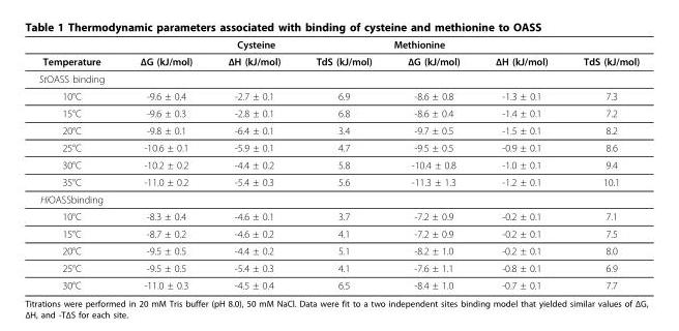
<table><thead><tr><td rowspan="2">Temperature</td><td colspan="3">Cysteine</td><td colspan="3">Methionine</td></tr><tr><td>ΔG (kJ/mol)</td><td>ΔH (kJ/mol)</td><td>TdS (kJ/mol)</td><td>ΔG (kJ/mol)</td><td>ΔH (kJ/mol)</td><td>TdS (kJ/mol)</td></tr></thead><tbody><tr><td colspan="7">StOASS binding</td></tr><tr><td>10°C</td><td>-9.6 ± 0.4</td><td>-2.7 ± 0.1</td><td>6.9</td><td>-8.6 ± 0.8</td><td>-1.3 ± 0.1</td><td>7.3</td></tr><tr><td>15°C</td><td>-9.6 ± 0.3</td><td>-2.8 ± 0.1</td><td>6.8</td><td>-8.6 ± 0.4</td><td>-1.4 ± 0.1</td><td>7.2</td></tr><tr><td>20°C</td><td>-9.8 ± 0.1</td><td>-6.4 ± 0.1</td><td>3.4</td><td>-9.7 ± 0.5</td><td>-1.5 ± 0.1</td><td>8.2</td></tr><tr><td>25°C</td><td>-10.6 ± 0.1</td><td>-5.9 ± 0.1</td><td>4.7</td><td>-9.5 ± 0.5</td><td>-0.9 ± 0.1</td><td>8.6</td></tr><tr><td>30°C</td><td>-10.2 ± 0.2</td><td>-4.4 ± 0.2</td><td>5.8</td><td>-10.4 ± 0.8</td><td>-1.0 ± 0.1</td><td>9.4</td></tr><tr><td>35°C</td><td>-11.0 ± 0.2</td><td>-5.4 ± 0.3</td><td>5.6</td><td>-11.3 ± 1.3</td><td>-1.2 ± 0.1</td><td>10.1</td></tr><tr><td colspan="7">HiOASSbinding</td></tr><tr><td>10°C</td><td>-8.3 ± 0.4</td><td>-4.6 ± 0.1</td><td>3.7</td><td>-7.2 ± 0.9</td><td>-0.2 ± 0.1</td><td>7.1</td></tr><tr><td>15°C</td><td>-8.7 ± 0.2</td><td>-4.6 ± 0.2</td><td>4.1</td><td>-7.2 ± 0.9</td><td>-0.2 ± 0.1</td><td>7.5</td></tr><tr><td>20°C</td><td>-9.5 ± 0.5</td><td>-4.4 ± 0.2</td><td>5.1</td><td>-8.2 ± 1.0</td><td>-0.2 ± 0.1</td><td>8.0</td></tr><tr><td>25°C</td><td>-9.5 ± 0.5</td><td>-5.4 ± 0.3</td><td>4.1</td><td>-7.6 ± 1.1</td><td>-0.8 ± 0.1</td><td>6.9</td></tr><tr><td>30°C</td><td>-11.0 ± 0.3</td><td>-4.5 ± 0.4</td><td>6.5</td><td>-8.4 ± 1.0</td><td>-0.7 ± 0.1</td><td>7.7</td></tr></tbody></table>